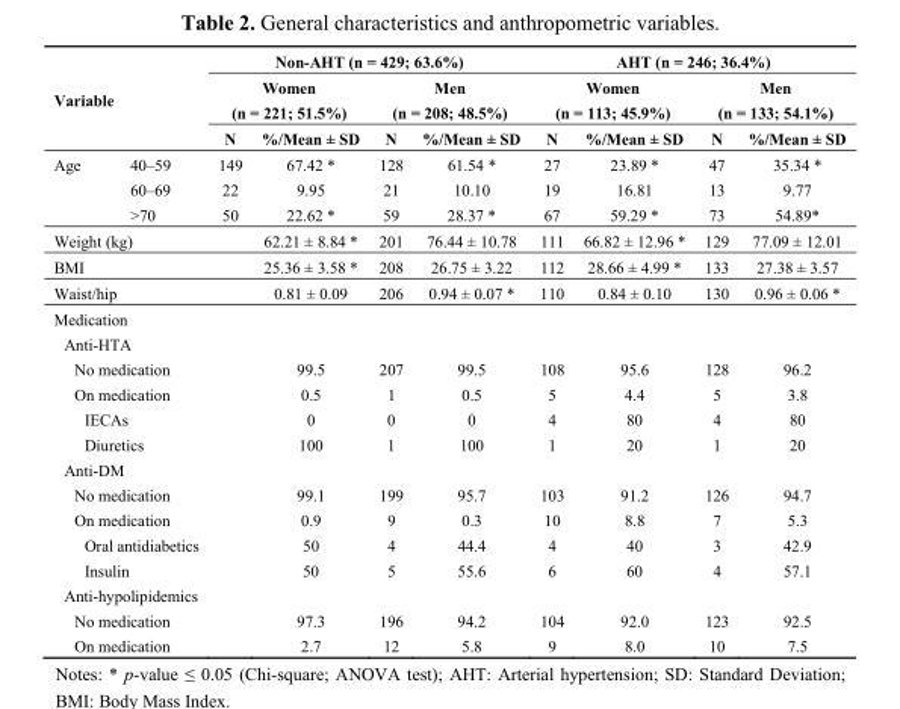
<table><thead><tr><td rowspan="3" colspan="2">Variable</td><td colspan="4">Non-AHT (n = 429; 63.6%)</td><td colspan="4">AHT (n = 246; 36.4%)</td></tr><tr><td colspan="2">Women (n = 221; 51.5%)</td><td colspan="2">Men (n = 208; 48.5%)</td><td colspan="2">Women (n = 113; 45.9%)</td><td colspan="2">Men (n = 133; 54.1%)</td></tr><tr><td rowspan="2">N 149</td><td rowspan="2">%/Mean ± SD 67.42 *</td><td rowspan="2">N 128</td><td rowspan="2">%/Mean ± SD 61.54 *</td><td rowspan="2">N 27</td><td rowspan="2">%/Mean ± SD 23.89 *</td><td rowspan="2">N 47</td><td rowspan="2">%/Mean ± SD 35.34 *</td></tr><tr><td>Age</td><td>40–59</td></tr></thead><tbody><tr><td></td><td>60–69</td><td>22</td><td>9.95</td><td>21</td><td>10.10</td><td>19</td><td>16.81</td><td>13</td><td>9.77</td></tr><tr><td></td><td>&gt;70</td><td>50</td><td>22.62 *</td><td>59</td><td>28.37 *</td><td>67</td><td>59.29 *</td><td>73</td><td>54.89*</td></tr><tr><td colspan="2">Weight (kg)</td><td></td><td>62.21 ± 8.84 *</td><td>201</td><td>76.44 ± 10.78</td><td>111</td><td>66.82 ± 12.96 *</td><td>129</td><td>77.09 ± 12.01</td></tr><tr><td colspan="2">BMI</td><td></td><td>25.36 ± 3.58 *</td><td>208</td><td>26.75 ± 3.22</td><td>112</td><td>28.66 ± 4.99 *</td><td>133</td><td>27.38 ± 3.57</td></tr><tr><td colspan="2">Waist/hip</td><td></td><td>0.81 ± 0.09</td><td>206</td><td>0.94 ± 0.07 *</td><td>110</td><td>0.84 ± 0.10</td><td>130</td><td>0.96 ± 0.06 *</td></tr><tr><td colspan="10">Medication</td></tr><tr><td colspan="10">Anti-HTA</td></tr><tr><td colspan="2">No medication</td><td></td><td>99.5</td><td>207</td><td>99.5</td><td>108</td><td>95.6</td><td>128</td><td>96.2</td></tr><tr><td colspan="2">On medication</td><td></td><td>0.5</td><td>1</td><td>0.5</td><td>5</td><td>4.4</td><td>5</td><td>3.8</td></tr><tr><td colspan="2">IECAs</td><td></td><td>0</td><td>0</td><td>0</td><td>4</td><td>80</td><td>4</td><td>80</td></tr><tr><td colspan="2">Diuretics</td><td></td><td>100</td><td>1</td><td>100</td><td>1</td><td>20</td><td>1</td><td>20</td></tr><tr><td colspan="10">Anti-DM</td></tr><tr><td colspan="2">No medication</td><td></td><td>99.1</td><td>199</td><td>95.7</td><td>103</td><td>91.2</td><td>126</td><td>94.7</td></tr><tr><td colspan="2">On medication</td><td></td><td>0.9</td><td>9</td><td>0.3</td><td>10</td><td>8.8</td><td>7</td><td>5.3</td></tr><tr><td colspan="2">Oral antidiabetics</td><td></td><td>50</td><td>4</td><td>44.4</td><td>4</td><td>40</td><td>3</td><td>42.9</td></tr><tr><td colspan="2">Insulin</td><td></td><td>50</td><td>5</td><td>55.6</td><td>6</td><td>60</td><td>4</td><td>57.1</td></tr><tr><td colspan="10">Anti-hypolipidemics</td></tr><tr><td colspan="2">No medication</td><td></td><td>97.3</td><td>196</td><td>94.2</td><td>104</td><td>92.0</td><td>123</td><td>92.5</td></tr><tr><td colspan="2">On medication</td><td></td><td>2.7</td><td>12</td><td>5.8</td><td>9</td><td>8.0</td><td>10</td><td>7.5</td></tr></tbody></table>